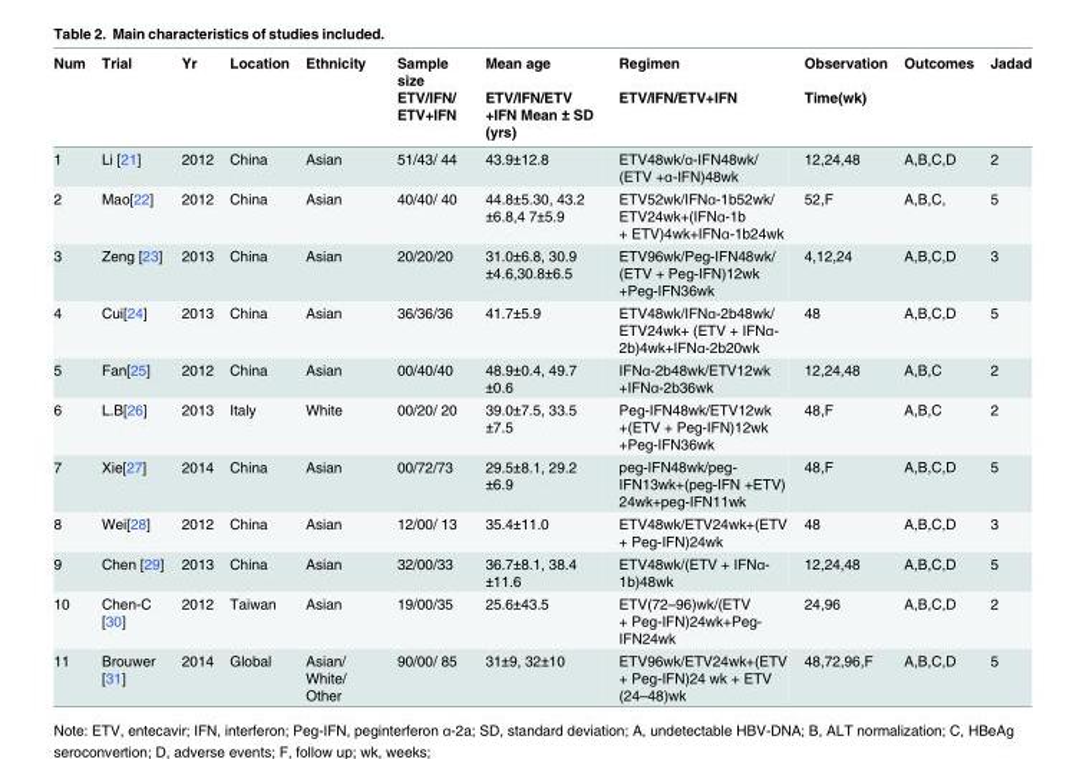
<table><thead><tr><td rowspan="2">Num</td><td rowspan="2">Trial</td><td rowspan="2">Yr</td><td rowspan="2">Location</td><td rowspan="2">Ethnicity</td><td rowspan="2">Sample size ETV/IFN/ ETV+IFN</td><td rowspan="2">Mean age ETV/IFN/ETV +IFN Mean ± SD (yrs)</td><td rowspan="2">Regimen ETV/IFN/ETV+IFN</td><td rowspan="2">Observation Time(wk)</td><td rowspan="2">Outcomes</td><td rowspan="2">Jadad</td></tr><tr></tr></thead><tbody><tr><td>1</td><td>Li [21]</td><td>2012</td><td>China</td><td>Asian</td><td>51/43/ 44</td><td>43.9±12.8</td><td>ETV48wk/ɑ-IFN48wk/ (ETV +ɑ-IFN)48wk</td><td>12,24,48</td><td>A,B,C,D</td><td>2</td></tr><tr><td>2</td><td>Mao[22]</td><td>2012</td><td>China</td><td>Asian</td><td>40/40/ 40</td><td>44.8±5.30, 43.2 ±6.8,4 7±5.9</td><td>ETV52wk/IFNɑ-1b52wk/ ETV24wk+(IFNɑ-1b + ETV)4wk+IFNɑ-1b24wk</td><td>52,F</td><td>A,B,C,</td><td>5</td></tr><tr><td>3</td><td>Zeng [23]</td><td>2013</td><td>China</td><td>Asian</td><td>20/20/20</td><td>31.0±6.8, 30.9 ±4.6,30.8±6.5</td><td>ETV96wk/Peg-IFN48wk/ (ETV + Peg-IFN)12wk +Peg-IFN36wk</td><td>4,12,24</td><td>A,B,C,D</td><td>3</td></tr><tr><td>4</td><td>Cui[24]</td><td>2013</td><td>China</td><td>Asian</td><td>36/36/36</td><td>41.7±5.9</td><td>ETV48wk/IFNɑ-2b48wk/ ETV24wk+ (ETV + IFNɑ- 2b)4wk+IFNɑ-2b20wk</td><td>48</td><td>A,B,C,D</td><td>5</td></tr><tr><td>5</td><td>Fan[25]</td><td>2012</td><td>China</td><td>Asian</td><td>00/40/40</td><td>48.9±0.4, 49.7 ±0.6</td><td>IFNɑ-2b48wk/ETV12wk +IFNɑ-2b36wk</td><td>12,24,48</td><td>A,B,C</td><td>2</td></tr><tr><td>6</td><td>L.B[26]</td><td>2013</td><td>Italy</td><td>White</td><td>00/20/ 20</td><td>39.0±7.5, 33.5 ±7.5</td><td>Peg-IFN48wk/ETV12wk +(ETV + Peg-IFN)12wk +Peg-IFN36wk</td><td>48,F</td><td>A,B,C</td><td>2</td></tr><tr><td>7</td><td>Xie[27]</td><td>2014</td><td>China</td><td>Asian</td><td>00/72/73</td><td>29.5±8.1, 29.2 ±6.9</td><td>peg-IFN48wk/peg- IFN13wk+(peg-IFN +ETV) 24wk+peg-IFN11wk</td><td>48,F</td><td>A,B,C,D</td><td>5</td></tr><tr><td>8</td><td>Wei[28]</td><td>2012</td><td>China</td><td>Asian</td><td>12/00/ 13</td><td>35.4±11.0</td><td>ETV48wk/ETV24wk+(ETV + Peg-IFN)24wk</td><td>48</td><td>A,B,C,D</td><td>3</td></tr><tr><td>9</td><td>Chen [29]</td><td>2013</td><td>China</td><td>Asian</td><td>32/00/33</td><td>36.7±8.1, 38.4 ±11.6</td><td>ETV48wk/(ETV + IFNɑ- 1b)48wk</td><td>12,24,48</td><td>A,B,C,D</td><td>5</td></tr><tr><td>10</td><td>Chen-C [30]</td><td>2012</td><td>Taiwan</td><td>Asian</td><td>19/00/35</td><td>25.6±43.5</td><td>ETV(72–96)wk/(ETV + Peg-IFN)24wk+Peg- IFN24wk</td><td>24,96</td><td>A,B,C,D</td><td>2</td></tr><tr><td>11</td><td>Brouwer [31]</td><td>2014</td><td>Global</td><td>Asian/ White/ Other</td><td>90/00/ 85</td><td>31±9, 32±10</td><td>ETV96wk/ETV24wk+(ETV + Peg-IFN)24 wk + ETV (24–48)wk</td><td>48,72,96,F</td><td>A,B,C,D</td><td>5</td></tr></tbody></table>